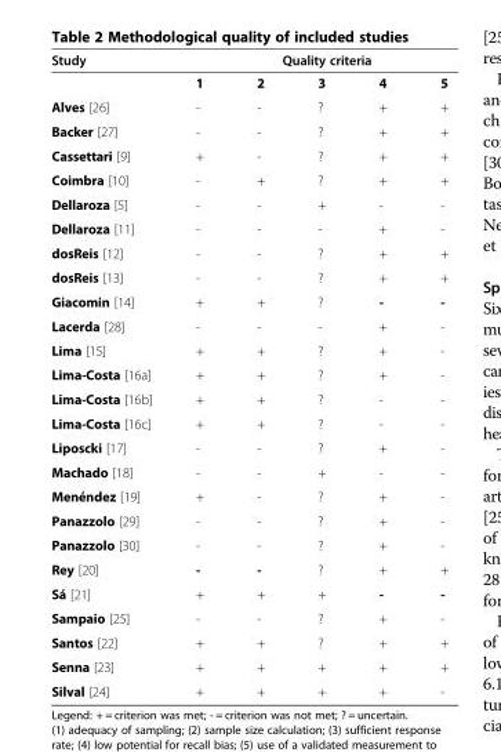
<table><thead><tr><td rowspan="2">Study</td><td colspan="5">Quality criteria</td></tr><tr><td>1</td><td>2</td><td>3</td><td>4</td><td>5</td></tr></thead><tbody><tr><td>Alves [26]</td><td>-</td><td>-</td><td>?</td><td>+</td><td>+</td></tr><tr><td>Backer [27]</td><td>-</td><td>-</td><td>?</td><td>+</td><td>+</td></tr><tr><td>Cassettari [9]</td><td>+</td><td>-</td><td>?</td><td>+</td><td>+</td></tr><tr><td>Coimbra [10]</td><td>-</td><td>+</td><td>?</td><td>+</td><td>+</td></tr><tr><td>Dellaroza [5]</td><td>-</td><td>-</td><td>+</td><td>-</td><td>-</td></tr><tr><td>Dellaroza [11]</td><td>-</td><td>-</td><td>-</td><td>+</td><td>-</td></tr><tr><td>dosReis [12]</td><td>-</td><td>-</td><td>?</td><td>+</td><td>+</td></tr><tr><td>dosReis [13]</td><td>-</td><td>-</td><td>?</td><td>+</td><td>+</td></tr><tr><td>Giacomin [14]</td><td>+</td><td>+</td><td>?</td><td>-</td><td>-</td></tr><tr><td>Lacerda [28]</td><td>-</td><td>-</td><td>-</td><td>+</td><td>-</td></tr><tr><td>Lima [15]</td><td>+</td><td>+</td><td>?</td><td>+</td><td>-</td></tr><tr><td>Lima-Costa [16a]</td><td>+</td><td>+</td><td>?</td><td>+</td><td>-</td></tr><tr><td>Lima-Costa [16b]</td><td>+</td><td>+</td><td>?</td><td>-</td><td>-</td></tr><tr><td>Lima-Costa [16c]</td><td>+</td><td>+</td><td>?</td><td>-</td><td>-</td></tr><tr><td>Liposcki [17]</td><td>-</td><td>-</td><td>?</td><td>+</td><td>-</td></tr><tr><td>Machado [18]</td><td>-</td><td>-</td><td>+</td><td>-</td><td>-</td></tr><tr><td>Menéndez [19]</td><td>+</td><td>-</td><td>?</td><td>+</td><td>-</td></tr><tr><td>Panazzolo [29]</td><td>-</td><td>-</td><td>?</td><td>+</td><td>-</td></tr><tr><td>Panazzolo [30]</td><td>-</td><td>-</td><td>?</td><td>+</td><td>-</td></tr><tr><td>Rey [20]</td><td>-</td><td>-</td><td>?</td><td>+</td><td>+</td></tr><tr><td>Sá [21]</td><td>+</td><td>+</td><td>+</td><td>-</td><td>-</td></tr><tr><td>Sampaio [25]</td><td>-</td><td>-</td><td>?</td><td>+</td><td>-</td></tr><tr><td>Santos [22]</td><td>+</td><td>+</td><td>?</td><td>+</td><td>+</td></tr><tr><td>Senna [23]</td><td>+</td><td>+</td><td>+</td><td>+</td><td>+</td></tr><tr><td>Silval [24]</td><td>+</td><td>+</td><td>+</td><td>+</td><td>-</td></tr></tbody></table>